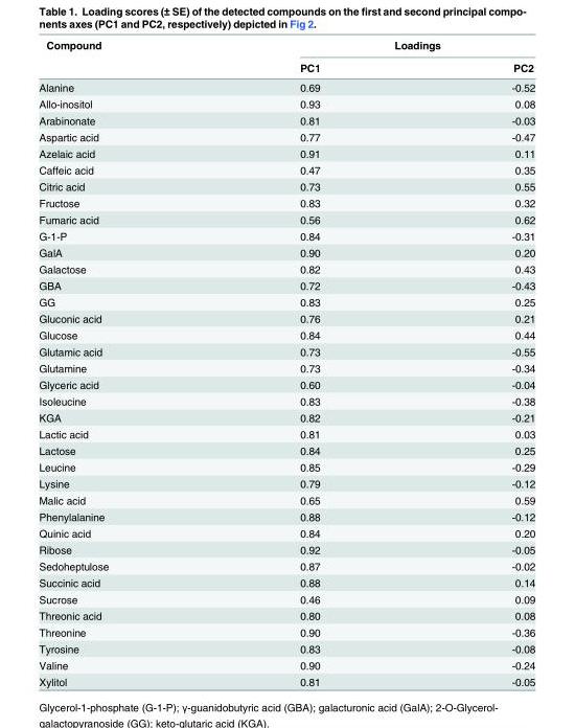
<table><thead><tr><td rowspan="2">Compound</td><td colspan="2">Loadings</td></tr><tr><td>PC1</td><td>PC2</td></tr></thead><tbody><tr><td>Alanine</td><td>0.69</td><td>-0.52</td></tr><tr><td>Allo-inositol</td><td>0.93</td><td>0.08</td></tr><tr><td>Arabinonate</td><td>0.81</td><td>-0.03</td></tr><tr><td>Aspartic acid</td><td>0.77</td><td>-0.47</td></tr><tr><td>Azelaic acid</td><td>0.91</td><td>0.11</td></tr><tr><td>Caffeic acid</td><td>0.47</td><td>0.35</td></tr><tr><td>Citric acid</td><td>0.73</td><td>0.55</td></tr><tr><td>Fructose</td><td>0.83</td><td>0.32</td></tr><tr><td>Fumaric acid</td><td>0.56</td><td>0.62</td></tr><tr><td>G-1-P</td><td>0.84</td><td>-0.31</td></tr><tr><td>GalA</td><td>0.90</td><td>0.20</td></tr><tr><td>Galactose</td><td>0.82</td><td>0.43</td></tr><tr><td>GBA</td><td>0.72</td><td>-0.43</td></tr><tr><td>GG</td><td>0.83</td><td>0.25</td></tr><tr><td>Gluconic acid</td><td>0.76</td><td>0.21</td></tr><tr><td>Glucose</td><td>0.84</td><td>0.44</td></tr><tr><td>Glutamic acid</td><td>0.73</td><td>-0.55</td></tr><tr><td>Glutamine</td><td>0.73</td><td>-0.34</td></tr><tr><td>Glyceric acid</td><td>0.60</td><td>-0.04</td></tr><tr><td>Isoleucine</td><td>0.83</td><td>-0.38</td></tr><tr><td>KGA</td><td>0.82</td><td>-0.21</td></tr><tr><td>Lactic acid</td><td>0.81</td><td>0.03</td></tr><tr><td>Lactose</td><td>0.84</td><td>0.25</td></tr><tr><td>Leucine</td><td>0.85</td><td>-0.29</td></tr><tr><td>Lysine</td><td>0.79</td><td>-0.12</td></tr><tr><td>Malic acid</td><td>0.65</td><td>0.59</td></tr><tr><td>Phenylalanine</td><td>0.88</td><td>-0.12</td></tr><tr><td>Quinic acid</td><td>0.84</td><td>0.20</td></tr><tr><td>Ribose</td><td>0.92</td><td>-0.05</td></tr><tr><td>Sedoheptulose</td><td>0.87</td><td>-0.02</td></tr><tr><td>Succinic acid</td><td>0.88</td><td>0.14</td></tr><tr><td>Sucrose</td><td>0.46</td><td>0.09</td></tr><tr><td>Threonic acid</td><td>0.80</td><td>0.08</td></tr><tr><td>Threonine</td><td>0.90</td><td>-0.36</td></tr><tr><td>Tyrosine</td><td>0.83</td><td>-0.08</td></tr><tr><td>Valine</td><td>0.90</td><td>-0.24</td></tr><tr><td>Xylitol</td><td>0.81</td><td>-0.05</td></tr></tbody></table>